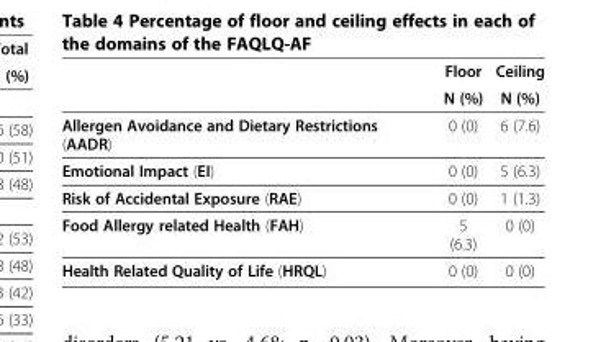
<table><thead><tr><td rowspan="2"></td><td rowspan="2">Floor N (%)</td><td rowspan="2">Ceiling N (%)</td></tr><tr></tr></thead><tbody><tr><td>Allergen Avoidance and Dietary Restrictions (AADR)</td><td>0 (0)</td><td>6 (7.6)</td></tr><tr><td>Emotional Impact (EI)</td><td>0 (0)</td><td>5 (6.3)</td></tr><tr><td>Risk of Accidental Exposure (RAE)</td><td>0 (0)</td><td>1 (1.3)</td></tr><tr><td>Food Allergy related Health (FAH)</td><td>5 (6.3)</td><td>0 (0)</td></tr><tr><td>Health Related Quality of Life (HRQL)</td><td>0 (0)</td><td>0 (0)</td></tr></tbody></table>